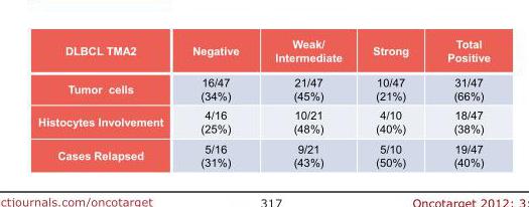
<table><thead><tr><td>DLBCL TMA2</td><td>Negative</td><td>Weak/ Intermediate</td><td>Strong</td><td>Total Positive</td></tr></thead><tbody><tr><td>Tumor cells</td><td>16/47 (34%)</td><td>21/47 (45%)</td><td>10/47 (21%)</td><td>31/47 (66%)</td></tr><tr><td>Histocytes Involvement</td><td>4/16 (25%)</td><td>10/21 (48%)</td><td>4/10 (40%)</td><td>18/47 (38%)</td></tr><tr><td>Cases Relapsed</td><td>5/16 (31%)</td><td>9/21 (43%)</td><td>5/10 (50%)</td><td>19/47 (40%)</td></tr></tbody></table>